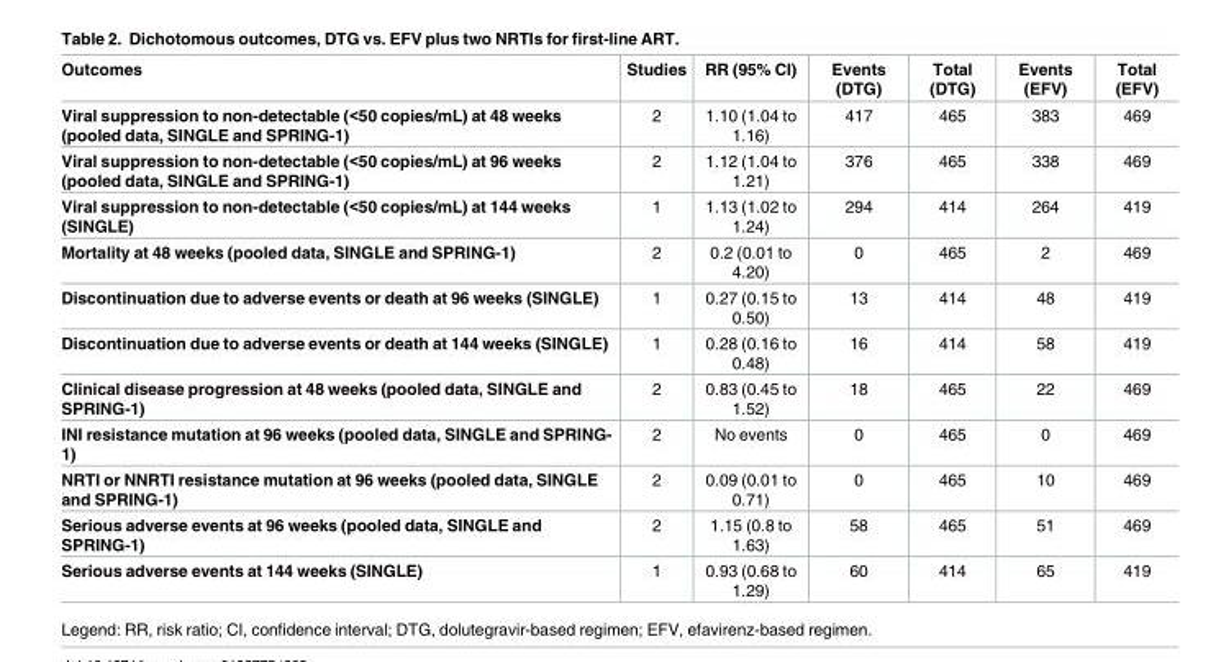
<table><thead><tr><td>Outcomes</td><td>Studies</td><td>RR (95% CI)</td><td>Events (DTG)</td><td>Total (DTG)</td><td>Events (EFV)</td><td>Total (EFV)</td></tr></thead><tbody><tr><td>Viral suppression to non-detectable (&lt;50 copies/mL) at 48 weeks (pooled data, SINGLE and SPRING-1)</td><td>2</td><td>1.10 (1.04 to 1.16)</td><td>417</td><td>465</td><td>383</td><td>469</td></tr><tr><td>Viral suppression to non-detectable (&lt;50 copies/mL) at 96 weeks (pooled data, SINGLE and SPRING-1)</td><td>2</td><td>1.12 (1.04 to 1.21)</td><td>376</td><td>465</td><td>338</td><td>469</td></tr><tr><td>Viral suppression to non-detectable (&lt;50 copies/mL) at 144 weeks (SINGLE)</td><td>1</td><td>1.13 (1.02 to 1.24)</td><td>294</td><td>414</td><td>264</td><td>419</td></tr><tr><td>Mortality at 48 weeks (pooled data, SINGLE and SPRING-1)</td><td>2</td><td>0.2 (0.01 to 4.20)</td><td>0</td><td>465</td><td>2</td><td>469</td></tr><tr><td>Discontinuation due to adverse events or death at 96 weeks (SINGLE)</td><td>1</td><td>0.27 (0.15 to 0.50)</td><td>13</td><td>414</td><td>48</td><td>419</td></tr><tr><td>Discontinuation due to adverse events or death at 144 weeks (SINGLE)</td><td>1</td><td>0.28 (0.16 to 0.48)</td><td>16</td><td>414</td><td>58</td><td>419</td></tr><tr><td>Clinical disease progression at 48 weeks (pooled data, SINGLE and SPRING-1)</td><td>2</td><td>0.83 (0.45 to 1.52)</td><td>18</td><td>465</td><td>22</td><td>469</td></tr><tr><td>INI resistance mutation at 96 weeks (pooled data, SINGLE and SPRING- 1)</td><td>2</td><td>No events</td><td>0</td><td>465</td><td>0</td><td>469</td></tr><tr><td>NRTI or NNRTI resistance mutation at 96 weeks (pooled data, SINGLE and SPRING-1)</td><td>2</td><td>0.09 (0.01 to 0.71)</td><td>0</td><td>465</td><td>10</td><td>469</td></tr><tr><td>Serious adverse events at 96 weeks (pooled data, SINGLE and SPRING-1)</td><td>2</td><td>1.15 (0.8 to 1.63)</td><td>58</td><td>465</td><td>51</td><td>469</td></tr><tr><td>Serious adverse events at 144 weeks (SINGLE)</td><td>1</td><td>0.93 (0.68 to 1.29)</td><td>60</td><td>414</td><td>65</td><td>419</td></tr></tbody></table>